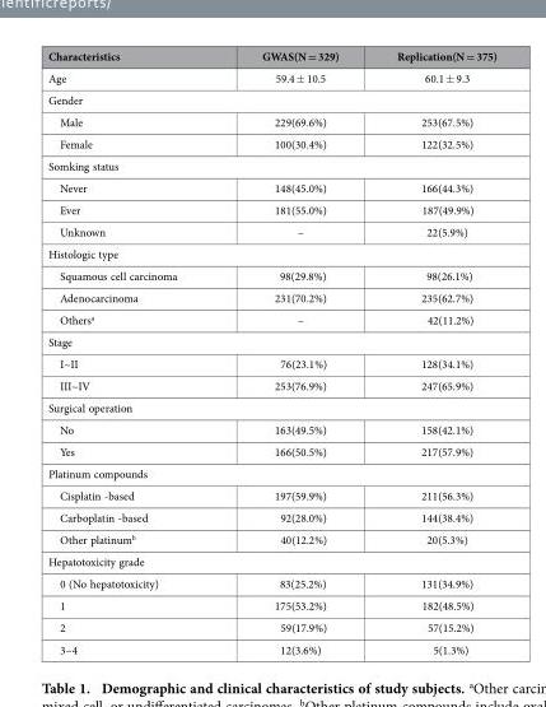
<table><thead><tr><td>Characteristics</td><td>GWAS(N = 329)</td><td>Replication(N = 375)</td></tr></thead><tbody><tr><td>Age</td><td>59.4 ± 10.5</td><td>60.1 ± 9.3</td></tr><tr><td colspan="3">Gender</td></tr><tr><td>Male</td><td>229(69.6%)</td><td>253(67.5%)</td></tr><tr><td>Female</td><td>100(30.4%)</td><td>122(32.5%)</td></tr><tr><td colspan="3">Somking status</td></tr><tr><td>Never</td><td>148(45.0%)</td><td>166(44.3%)</td></tr><tr><td>Ever</td><td>181(55.0%)</td><td>187(49.9%)</td></tr><tr><td>Unknown</td><td>–</td><td>22(5.9%)</td></tr><tr><td colspan="3">Histologic type</td></tr><tr><td>Squamous cell carcinoma</td><td>98(29.8%)</td><td>98(26.1%)</td></tr><tr><td>Adenocarcinoma</td><td>231(70.2%)</td><td>235(62.7%)</td></tr><tr><td>Others<sup>a</sup></td><td>–</td><td>42(11.2%)</td></tr><tr><td colspan="3">Stage</td></tr><tr><td>I~II</td><td>76(23.1%)</td><td>128(34.1%)</td></tr><tr><td>III~IV</td><td>253(76.9%)</td><td>247(65.9%)</td></tr><tr><td colspan="3">Surgical operation</td></tr><tr><td>No</td><td>163(49.5%)</td><td>158(42.1%)</td></tr><tr><td>Yes</td><td>166(50.5%)</td><td>217(57.9%)</td></tr><tr><td colspan="3">Platinum compounds</td></tr><tr><td>Cisplatin -based</td><td>197(59.9%)</td><td>211(56.3%)</td></tr><tr><td>Carboplatin -based</td><td>92(28.0%)</td><td>144(38.4%)</td></tr><tr><td>Other platinum<sup>b</sup></td><td>40(12.2%)</td><td>20(5.3%)</td></tr><tr><td colspan="3">Hepatotoxicity grade</td></tr><tr><td>0 (No hepatotoxicity)</td><td>83(25.2%)</td><td>131(34.9%)</td></tr><tr><td>1</td><td>175(53.2%)</td><td>182(48.5%)</td></tr><tr><td>2</td><td>59(17.9%)</td><td>57(15.2%)</td></tr><tr><td>3~4</td><td>12(3.6%)</td><td>5(1.3%)</td></tr></tbody></table>